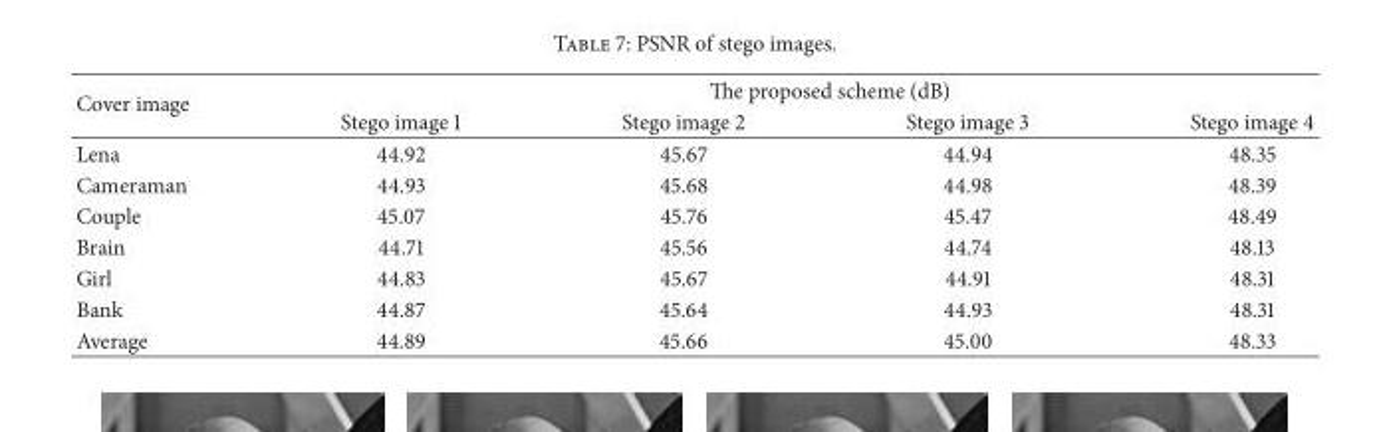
<table><thead><tr><td rowspan="2">Cover image</td><td colspan="4">The proposed scheme (dB)</td></tr><tr><td>Stego image 1</td><td>Stego image 2</td><td>Stego image 3</td><td>Stego image 4</td></tr></thead><tbody><tr><td>Lena</td><td>44.92</td><td>45.67</td><td>44.94</td><td>48.35</td></tr><tr><td>Cameraman</td><td>44.93</td><td>45.68</td><td>44.98</td><td>48.39</td></tr><tr><td>Couple</td><td>45.07</td><td>45.76</td><td>45.47</td><td>48.49</td></tr><tr><td>Brain</td><td>44.71</td><td>45.56</td><td>44.74</td><td>48.13</td></tr><tr><td>Girl</td><td>44.83</td><td>45.67</td><td>44.91</td><td>48.31</td></tr><tr><td>Bank</td><td>44.87</td><td>45.64</td><td>44.93</td><td>48.31</td></tr><tr><td>Average</td><td>44.89</td><td>45.66</td><td>45.00</td><td>48.33</td></tr></tbody></table>